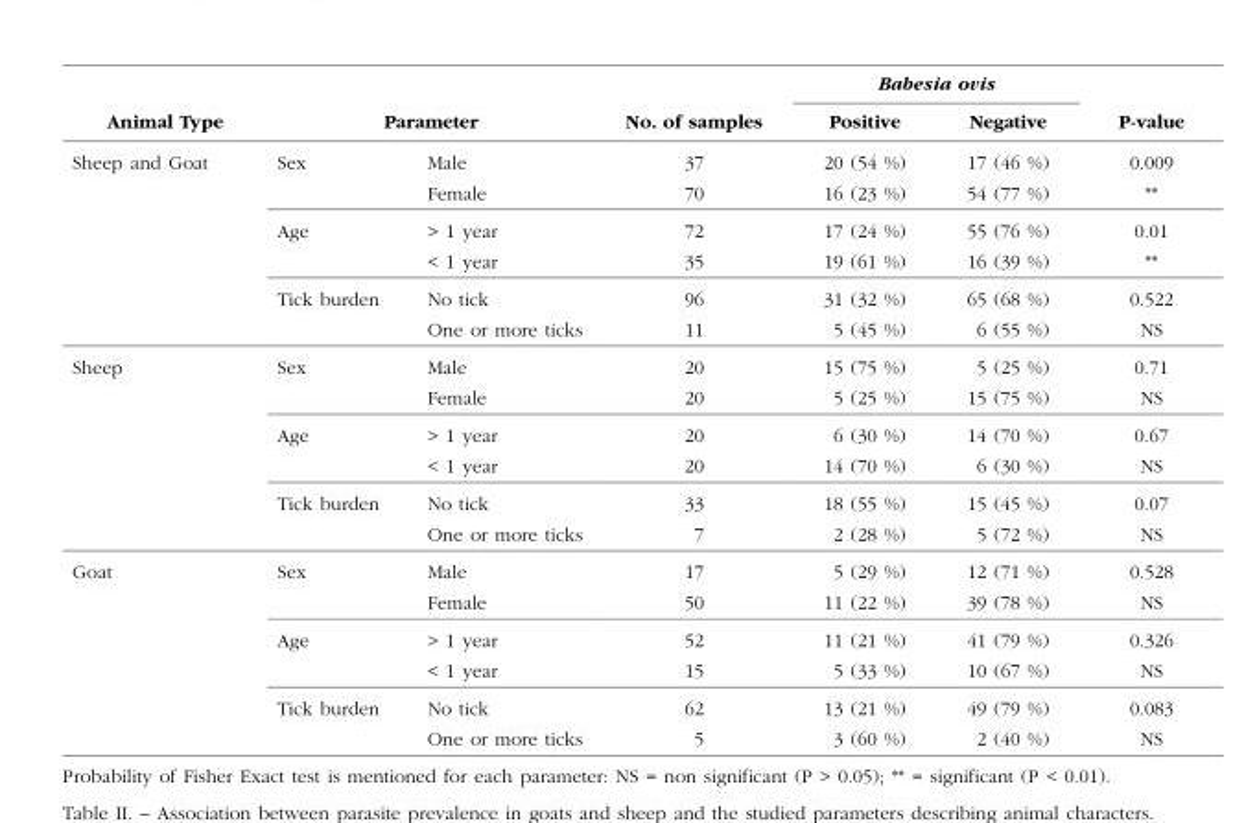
<table><thead><tr><td rowspan="2">Animal Type</td><td rowspan="2"></td><td rowspan="2">Parameter</td><td rowspan="2">No. of samples</td><td colspan="2">Babesia ovis</td><td rowspan="2">P-value</td></tr><tr><td>Positive</td><td>Negative</td></tr></thead><tbody><tr><td rowspan="6">Sheep and Goat</td><td>Sex</td><td>Male</td><td>37</td><td>20 (54 %)</td><td>17 (46 %)</td><td>0.009</td></tr><tr><td></td><td>Female</td><td>70</td><td>16 (23 %)</td><td>54 (77 %)</td><td>**</td></tr><tr><td>Age</td><td>&gt; 1 year</td><td>72</td><td>17 (24 %)</td><td>55 (76 %)</td><td>0.01</td></tr><tr><td></td><td>&lt; 1 year</td><td>35</td><td>19 (61 %)</td><td>16 (39 %)</td><td>**</td></tr><tr><td>Tick burden</td><td>No tick</td><td>96</td><td>31 (32 %)</td><td>65 (68 %)</td><td>0.522</td></tr><tr><td></td><td>One or more ticks</td><td>11</td><td>5 (45 %)</td><td>6 (55 %)</td><td>NS</td></tr><tr><td rowspan="6">Sheep</td><td>Sex</td><td>Male</td><td>20</td><td>15 (75 %)</td><td>5 (25 %)</td><td>0.71</td></tr><tr><td></td><td>Female</td><td>20</td><td>5 (25 %)</td><td>15 (75 %)</td><td>NS</td></tr><tr><td>Age</td><td>&gt; 1 year</td><td>20</td><td>6 (30 %)</td><td>14 (70 %)</td><td>0.67</td></tr><tr><td></td><td>&lt; 1 year</td><td>20</td><td>14 (70 %)</td><td>6 (30 %)</td><td>NS</td></tr><tr><td>Tick burden</td><td>No tick</td><td>33</td><td>18 (55 %)</td><td>15 (45 %)</td><td>0.07</td></tr><tr><td></td><td>One or more ticks</td><td>7</td><td>2 (28 %)</td><td>5 (72 %)</td><td>NS</td></tr><tr><td rowspan="6">Goat</td><td>Sex</td><td>Male</td><td>17</td><td>5 (29 %)</td><td>12 (71 %)</td><td>0.528</td></tr><tr><td></td><td>Female</td><td>50</td><td>11 (22 %)</td><td>39 (78 %)</td><td>NS</td></tr><tr><td>Age</td><td>&gt; 1 year</td><td>52</td><td>11 (21 %)</td><td>41 (79 %)</td><td>0.326</td></tr><tr><td></td><td>&lt; 1 year</td><td>15</td><td>5 (33 %)</td><td>10 (67 %)</td><td>NS</td></tr><tr><td>Tick burden</td><td>No tick</td><td>62</td><td>13 (21 %)</td><td>49 (79 %)</td><td>0.083</td></tr><tr><td></td><td>One or more ticks</td><td>5</td><td>3 (60 %)</td><td>2 (40 %)</td><td>NS</td></tr></tbody></table>